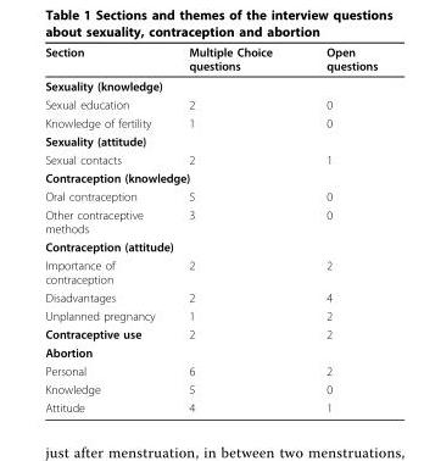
<table><thead><tr><td>Section</td><td>Multiple Choice questions</td><td>Open questions</td></tr></thead><tbody><tr><td colspan="3">Sexuality (knowledge)</td></tr><tr><td>Sexual education</td><td>2</td><td>0</td></tr><tr><td>Knowledge of fertility</td><td>1</td><td>0</td></tr><tr><td colspan="3">Sexuality (attitude)</td></tr><tr><td>Sexual contacts</td><td>2</td><td>1</td></tr><tr><td colspan="3">Contraception (knowledge)</td></tr><tr><td>Oral contraception</td><td>5</td><td>0</td></tr><tr><td>Other contraceptive methods</td><td>3</td><td>0</td></tr><tr><td colspan="3">Contraception (attitude)</td></tr><tr><td>Importance of contraception</td><td>2</td><td>2</td></tr><tr><td>Disadvantages</td><td>2</td><td>4</td></tr><tr><td>Unplanned pregnancy</td><td>1</td><td>2</td></tr><tr><td>Contraceptive use</td><td>2</td><td>2</td></tr><tr><td colspan="3">Abortion</td></tr><tr><td>Personal</td><td>6</td><td>2</td></tr><tr><td>Knowledge</td><td>5</td><td>0</td></tr><tr><td>Attitude</td><td>4</td><td>1</td></tr></tbody></table>